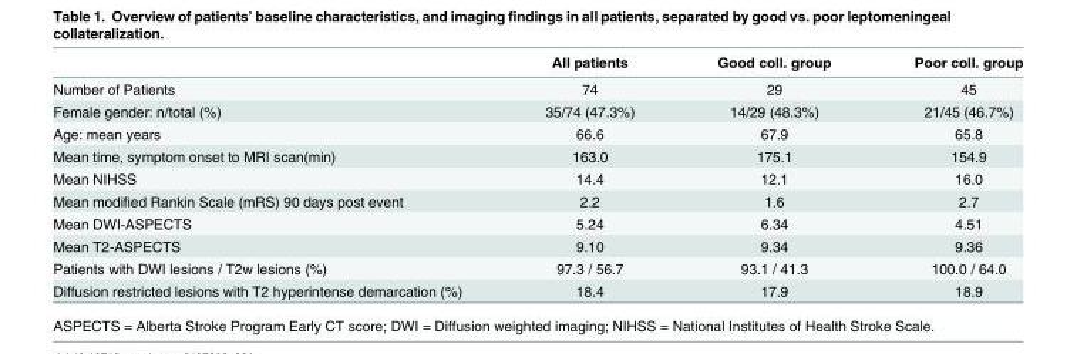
<table><thead><tr><td></td><td>All patients</td><td>Good coll. group</td><td>Poor coll. group</td></tr></thead><tbody><tr><td>Number of Patients</td><td>74</td><td>29</td><td>45</td></tr><tr><td>Female gender: n/total (%)</td><td>35/74 (47.3%)</td><td>14/29 (48.3%)</td><td>21/45 (46.7%)</td></tr><tr><td>Age: mean years</td><td>66.6</td><td>67.9</td><td>65.8</td></tr><tr><td>Mean time, symptom onset to MRI scan(min)</td><td>163.0</td><td>175.1</td><td>154.9</td></tr><tr><td>Mean NIHSS</td><td>14.4</td><td>12.1</td><td>16.0</td></tr><tr><td>Mean modified Rankin Scale (mRS) 90 days post event</td><td>2.2</td><td>1.6</td><td>2.7</td></tr><tr><td>Mean DWI-ASPECTS</td><td>5.24</td><td>6.34</td><td>4.51</td></tr><tr><td>Mean T2-ASPECTS</td><td>9.10</td><td>9.34</td><td>9.36</td></tr><tr><td>Patients with DWI lesions / T2w lesions (%)</td><td>97.3 / 56.7</td><td>93.1 / 41.3</td><td>100.0 / 64.0</td></tr><tr><td>Diffusion restricted lesions with T2 hyperintense demarcation (%)</td><td>18.4</td><td>17.9</td><td>18.9</td></tr></tbody></table>